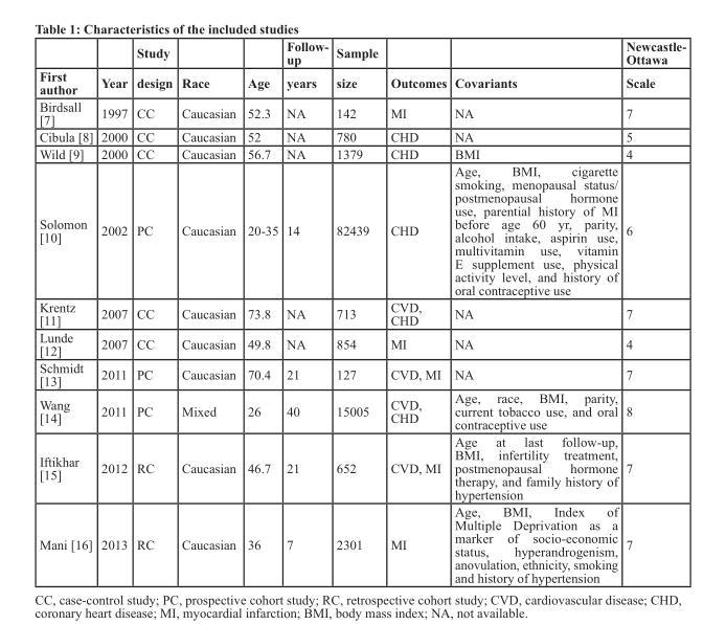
<table><thead><tr><td rowspan="2">First author</td><td rowspan="2">Year</td><td rowspan="2">study design</td><td rowspan="2">race</td><td rowspan="2">Age</td><td rowspan="2">Follow- up years</td><td rowspan="2">sample size</td><td rowspan="2">outcomes</td><td rowspan="2">covariants</td><td rowspan="2">newcastle- ottawa scale</td></tr><tr></tr></thead><tbody><tr><td>Birdsall [7]</td><td>1997</td><td>CC</td><td>Caucasian</td><td>52.3</td><td>NA</td><td>142</td><td>MI</td><td>NA</td><td>7</td></tr><tr><td>Cibula [8]</td><td>2000</td><td>CC</td><td>Caucasian</td><td>52</td><td>NA</td><td>780</td><td>CHD</td><td>NA</td><td>5</td></tr><tr><td>Wild [9]</td><td>2000</td><td>CC</td><td>Caucasian</td><td>56.7</td><td>NA</td><td>1379</td><td>CHD</td><td>BMI</td><td>4</td></tr><tr><td>Solomon [10]</td><td>2002</td><td>PC</td><td>Caucasian</td><td>20-35</td><td>14</td><td>82439</td><td>CHD</td><td>Age, BMI, cigarette smoking, menopausal status/ postmenopausal hormone use, parential history of MI before age 60 yr, parity, alcohol intake, aspirin use, multivitamin use, vitamin E supplement use, physical activity level, and history of oral contraceptive use</td><td>6</td></tr><tr><td>Krentz [11]</td><td>2007</td><td>CC</td><td>Caucasian</td><td>73.8</td><td>NA</td><td>713</td><td>CVD, CHD</td><td>NA</td><td>7</td></tr><tr><td>Lunde [12]</td><td>2007</td><td>CC</td><td>Caucasian</td><td>49.8</td><td>NA</td><td>854</td><td>MI</td><td>NA</td><td>4</td></tr><tr><td>Schmidt [13]</td><td>2011</td><td>PC</td><td>Caucasian</td><td>70.4</td><td>21</td><td>127</td><td>CVD, MI</td><td>NA</td><td>7</td></tr><tr><td>Wang [14]</td><td>2011</td><td>PC</td><td>Mixed</td><td>26</td><td>40</td><td>15005</td><td>CVD, CHD</td><td>Age, race, BMI, parity, current tobacco use, and oral contraceptive use</td><td>8</td></tr><tr><td>Iftikhar [15]</td><td>2012</td><td>RC</td><td>Caucasian</td><td>46.7</td><td>21</td><td>652</td><td>CVD, MI</td><td>Age at last follow-up, BMI, infertility treatment, postmenopausal hormone therapy, and family history of hypertension</td><td>7</td></tr><tr><td>Mani [16]</td><td>2013</td><td>RC</td><td>Caucasian</td><td>36</td><td>7</td><td>2301</td><td>MI</td><td>Age, BMI, Index of Multiple Deprivation as a marker of socio-economic status, hyperandrogenism, anovulation, ethnicity, smoking and history of hypertension</td><td>7</td></tr></tbody></table>